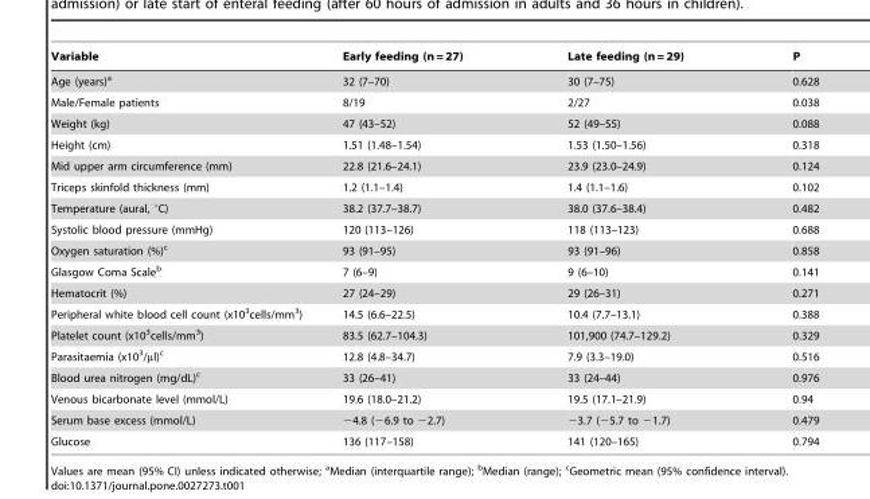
<table><thead><tr><td>Variable</td><td>Early feeding (n = 27)</td><td>Late feeding (n = 29)</td><td>P</td></tr></thead><tbody><tr><td>Age (years)<sup>a</sup></td><td>32 (7–70)</td><td>30 (7–75)</td><td>0.628</td></tr><tr><td>Male/Female patients</td><td>8/19</td><td>2/27</td><td>0.038</td></tr><tr><td>Weight (kg)</td><td>47 (43–52)</td><td>52 (49–55)</td><td>0.088</td></tr><tr><td>Height (cm)</td><td>1.51 (1.48–1.54)</td><td>1.53 (1.50–1.56)</td><td>0.318</td></tr><tr><td>Mid upper arm circumference (mm)</td><td>22.8 (21.6–24.1)</td><td>23.9 (23.0–24.9)</td><td>0.124</td></tr><tr><td>Triceps skinfold thickness (mm)</td><td>1.2 (1.1–1.4)</td><td>1.4 (1.1–1.6)</td><td>0.102</td></tr><tr><td>Temperature (aural, °C)</td><td>38.2 (37.7–38.7)</td><td>38.0 (37.6–38.4)</td><td>0.482</td></tr><tr><td>Systolic blood pressure (mmHg)</td><td>120 (113–126)</td><td>118 (113–123)</td><td>0.688</td></tr><tr><td>Oxygen saturation (%)<sup>c</sup></td><td>93 (91–95)</td><td>93 (91–96)</td><td>0.858</td></tr><tr><td>Glasgow Coma Scale<sup>b</sup></td><td>7 (6–9)</td><td>9 (6–10)</td><td>0.141</td></tr><tr><td>Hematocrit (%)</td><td>27 (24–29)</td><td>29 (26–31)</td><td>0.271</td></tr><tr><td>Peripheral white blood cell count (x10<sup>3</sup>cells/mm<sup>3</sup>)</td><td>14.5 (6.6–22.5)</td><td>10.4 (7.7–13.1)</td><td>0.388</td></tr><tr><td>Platelet count (x10<sup>3</sup>cells/mm<sup>3</sup>)</td><td>83.5 (62.7–104.3)</td><td>101,900 (74.7–129.2)</td><td>0.329</td></tr><tr><td>Parasitaemia (x10<sup>3</sup>/µl)<sup>c</sup></td><td>12.8 (4.8–34.7)</td><td>7.9 (3.3–19.0)</td><td>0.516</td></tr><tr><td>Blood urea nitrogen (mg/dL)<sup>c</sup></td><td>33 (26–41)</td><td>33 (24–44)</td><td>0.976</td></tr><tr><td>Venous bicarbonate level (mmol/L)</td><td>19.6 (18.0–21.2)</td><td>19.5 (17.1–21.9)</td><td>0.94</td></tr><tr><td>Serum base excess (mmol/L)</td><td>−4.8 (−6.9 to −2.7)</td><td>−3.7 (−5.7 to −1.7)</td><td>0.479</td></tr><tr><td>Glucose</td><td>136 (117–158)</td><td>141 (120–165)</td><td>0.794</td></tr></tbody></table>